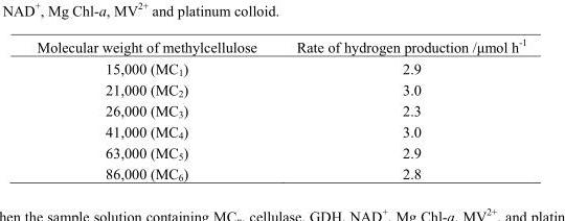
<table><thead><tr><td>Molecular weight of methylcellulose</td><td>Rate of hydrogen production /μmol h<sup>-1</sup></td></tr></thead><tbody><tr><td>15,000 (MC<sub>1</sub>)</td><td>2.9</td></tr><tr><td>21,000 (MC<sub>2</sub>)</td><td>3.0</td></tr><tr><td>26,000 (MC<sub>3</sub>)</td><td>2.3</td></tr><tr><td>41,000 (MC<sub>4</sub>)</td><td>3.0</td></tr><tr><td>63,000 (MC<sub>5</sub>)</td><td>2.9</td></tr><tr><td>86,000 (MC<sub>6</sub>)</td><td>2.8</td></tr></tbody></table>